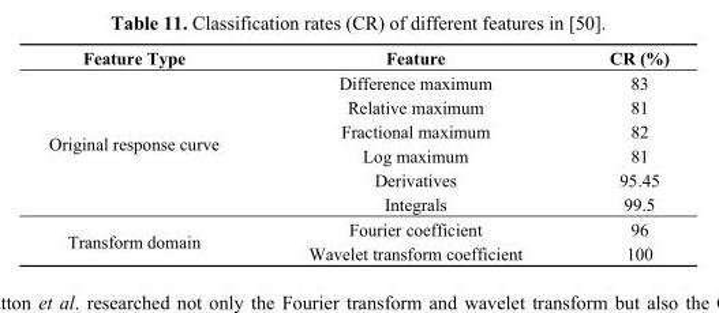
<table><thead><tr><td>Feature Type</td><td>Feature</td><td>CR (%)</td></tr></thead><tbody><tr><td rowspan="6">Original response curve</td><td>Difference maximum</td><td>83</td></tr><tr><td>Relative maximum</td><td>81</td></tr><tr><td>Fractional maximum</td><td>82</td></tr><tr><td>Log maximum</td><td>81</td></tr><tr><td>Derivatives</td><td>95.45</td></tr><tr><td>Integrals</td><td>99.5</td></tr><tr><td rowspan="2">Transform domain</td><td>Fourier coefficient</td><td>96</td></tr><tr><td>Wavelet transform coefficient</td><td>100</td></tr></tbody></table>